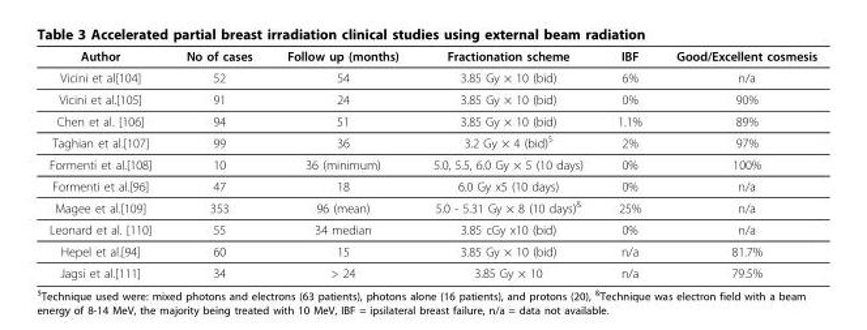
<table><thead><tr><td>Author</td><td>No of cases</td><td>Follow up (months)</td><td>Fractionation scheme</td><td>IBF</td><td>Good/Excellent cosmesis</td></tr></thead><tbody><tr><td>Vicini et al[104]</td><td>52</td><td>54</td><td>3.85 Gy × 10 (bid)</td><td>6%</td><td>n/a</td></tr><tr><td>Vicini et al.[105]</td><td>91</td><td>24</td><td>3.85 Gy × 10 (bid)</td><td>0%</td><td>90%</td></tr><tr><td>Chen et al. [106]</td><td>94</td><td>51</td><td>3.85 Gy × 10 (bid)</td><td>1.1%</td><td>89%</td></tr><tr><td>Taghian et al.[107]</td><td>99</td><td>36</td><td>3.2 Gy × 4 (bid)<sup>$</sup></td><td>2%</td><td>97%</td></tr><tr><td>Formenti et al.[108]</td><td>10</td><td>36 (minimum)</td><td>5.0, 5.5, 6.0 Gy × 5 (10 days)</td><td>0%</td><td>100%</td></tr><tr><td>Formenti et al.[96]</td><td>47</td><td>18</td><td>6.0 Gy x5 (10 days)</td><td>0%</td><td>n/a</td></tr><tr><td>Magee et al.[109]</td><td>353</td><td>96 (mean)</td><td>5.0 - 5.31 Gy × 8 (10 days)<sup>&amp;</sup></td><td>25%</td><td>n/a</td></tr><tr><td>Leonard et al. [110]</td><td>55</td><td>34 median</td><td>3.85 cGy x10 (bid)</td><td>0%</td><td>n/a</td></tr><tr><td>Hepel et al.[94]</td><td>60</td><td>15</td><td>3.85 Gy × 10 (bid)</td><td>n/a</td><td>81.7%</td></tr><tr><td>Jagsi et al.[111]</td><td>34</td><td>&gt; 24</td><td>3.85 Gy × 10</td><td>n/a</td><td>79.5%</td></tr></tbody></table>